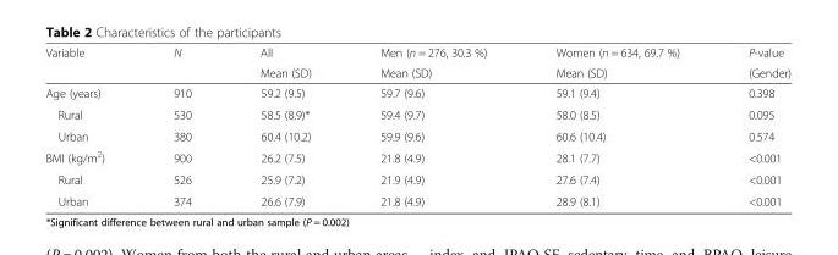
<table><thead><tr><td rowspan="2">Variable</td><td rowspan="2">N</td><td rowspan="2">All Mean (SD)</td><td rowspan="2">Men (n = 276, 30.3 %) Mean (SD)</td><td rowspan="2">Women (n = 634, 69.7 %) Mean (SD)</td><td rowspan="2">P-value (Gender)</td></tr><tr></tr></thead><tbody><tr><td>Age (years)</td><td>910</td><td>59.2 (9.5)</td><td>59.7 (9.6)</td><td>59.1 (9.4)</td><td>0.398</td></tr><tr><td>Rural</td><td>530</td><td>58.5 (8.9)*</td><td>59.4 (9.7)</td><td>58.0 (8.5)</td><td>0.095</td></tr><tr><td>Urban</td><td>380</td><td>60.4 (10.2)</td><td>59.9 (9.6)</td><td>60.6 (10.4)</td><td>0.574</td></tr><tr><td>BMI (kg/m<sup>2</sup>)</td><td>900</td><td>26.2 (7.5)</td><td>21.8 (4.9)</td><td>28.1 (7.7)</td><td>&lt;0.001</td></tr><tr><td>Rural</td><td>526</td><td>25.9 (7.2)</td><td>21.9 (4.9)</td><td>27.6 (7.4)</td><td>&lt;0.001</td></tr><tr><td>Urban</td><td>374</td><td>26.6 (7.9)</td><td>21.8 (4.9)</td><td>28.9 (8.1)</td><td>&lt;0.001</td></tr></tbody></table>